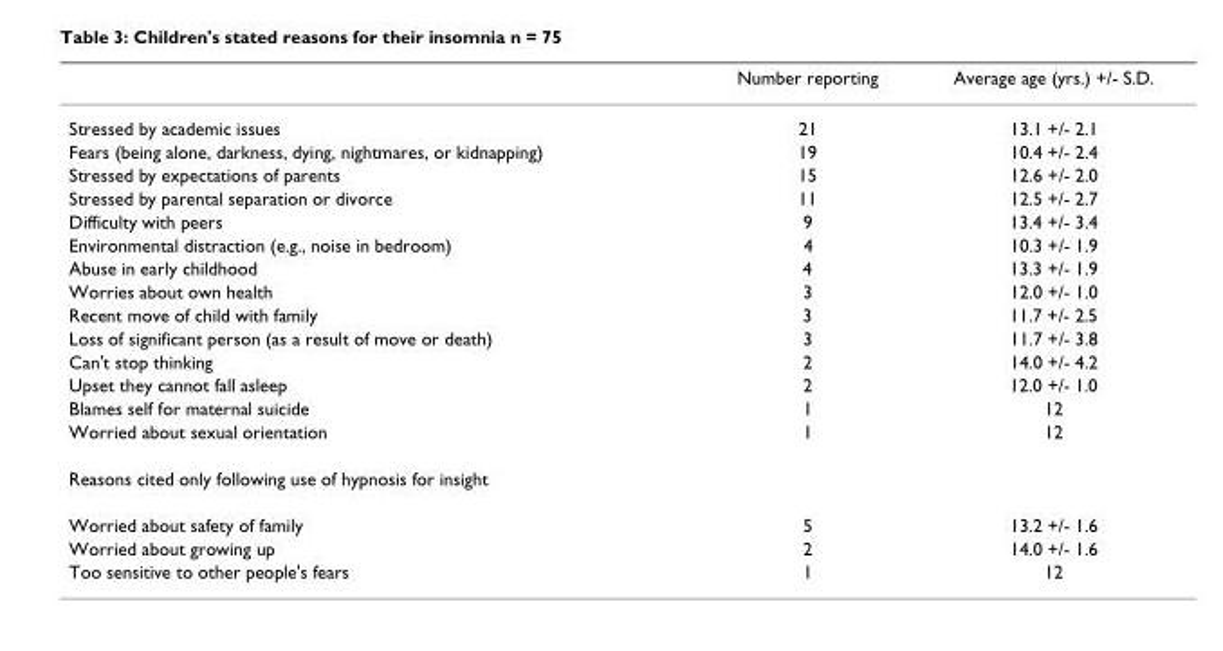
<table><thead><tr><td></td><td>Number reporting</td><td>Average age (yrs.) +/- S.D.</td></tr></thead><tbody><tr><td>Stressed by academic issues</td><td>21</td><td>13.1 +/- 2.1</td></tr><tr><td>Fears (being alone, darkness, dying, nightmares, or kidnapping)</td><td>19</td><td>10.4 +/- 2.4</td></tr><tr><td>Stressed by expectations of parents</td><td>15</td><td>12.6 +/- 2.0</td></tr><tr><td>Stressed by parental separation or divorce</td><td>11</td><td>12.5 +/- 2.7</td></tr><tr><td>Difficulty with peers</td><td>9</td><td>13.4 +/- 3.4</td></tr><tr><td>Environmental distraction (e.g., noise in bedroom)</td><td>4</td><td>10.3 +/- 1.9</td></tr><tr><td>Abuse in early childhood</td><td>4</td><td>13.3 +/- 1.9</td></tr><tr><td>Worries about own health</td><td>3</td><td>12.0 +/- 1.0</td></tr><tr><td>Recent move of child with family</td><td>3</td><td>11.7 +/- 2.5</td></tr><tr><td>Loss of significant person (as a result of move or death)</td><td>3</td><td>11.7 +/- 3.8</td></tr><tr><td>Can&#x27;t stop thinking</td><td>2</td><td>14.0 +/- 4.2</td></tr><tr><td>Upset they cannot fall asleep</td><td>2</td><td>12.0 +/- 1.0</td></tr><tr><td>Blames self for maternal suicide</td><td>1</td><td>12</td></tr><tr><td>Worried about sexual orientation</td><td>1</td><td>12</td></tr><tr><td colspan="3">Reasons cited only following use of hypnosis for insight</td></tr><tr><td>Worried about safety of family</td><td>5</td><td>13.2 +/- 1.6</td></tr><tr><td>Worried about growing up</td><td>2</td><td>14.0 +/- 1.6</td></tr><tr><td>Too sensitive to other people&#x27;s fears</td><td>1</td><td>12</td></tr></tbody></table>